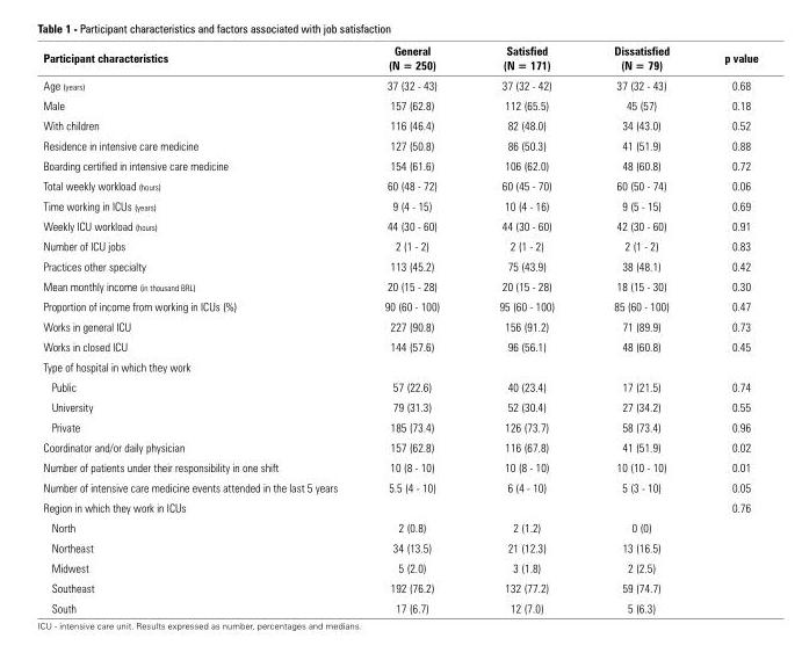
<table><thead><tr><td>Participant characteristics</td><td>General (N = 250)</td><td>Satisfied (N = 171)</td><td>Dissatisfied (N = 79)</td><td>p value</td></tr></thead><tbody><tr><td>Age (years)</td><td>37 (32 - 43)</td><td>37 (32 - 42)</td><td>37 (32 - 43)</td><td>0.68</td></tr><tr><td>Male</td><td>157 (62.8)</td><td>112 (65.5)</td><td>45 (57)</td><td>0.18</td></tr><tr><td>With children</td><td>116 (46.4)</td><td>82 (48.0)</td><td>34 (43.0)</td><td>0.52</td></tr><tr><td>Residence in intensive care medicine</td><td>127 (50.8)</td><td>86 (50.3)</td><td>41 (51.9)</td><td>0.88</td></tr><tr><td>Boarding certified in intensive care medicine</td><td>154 (61.6)</td><td>106 (62.0)</td><td>48 (60.8)</td><td>0.72</td></tr><tr><td>Total weekly workload (hours)</td><td>60 (48 - 72)</td><td>60 (45 - 70)</td><td>60 (50 - 74)</td><td>0.06</td></tr><tr><td>Time working in ICUs (years)</td><td>9 (4 - 15)</td><td>10 (4 - 16)</td><td>9 (5 - 15)</td><td>0.69</td></tr><tr><td>Weekly ICU workload (hours)</td><td>44 (30 - 60)</td><td>44 (30 - 60)</td><td>42 (30 - 60)</td><td>0.91</td></tr><tr><td>Number of ICU jobs</td><td>2 (1 - 2)</td><td>2 (1 - 2)</td><td>2 (1 - 2)</td><td>0.83</td></tr><tr><td>Practices other specialty</td><td>113 (45.2)</td><td>75 (43.9)</td><td>38 (48.1)</td><td>0.42</td></tr><tr><td>Mean monthly income (in thousand BRL)</td><td>20 (15 - 28)</td><td>20 (15 - 28)</td><td>18 (15 - 30)</td><td>0.30</td></tr><tr><td>Proportion of income from working in ICUs (%)</td><td>90 (60 - 100)</td><td>95 (60 - 100)</td><td>85 (60 - 100)</td><td>0.47</td></tr><tr><td>Works in general ICU</td><td>227 (90.8)</td><td>156 (91.2)</td><td>71 (89.9)</td><td>0.73</td></tr><tr><td>Works in closed ICU</td><td>144 (57.6)</td><td>96 (56.1)</td><td>48 (60.8)</td><td>0.45</td></tr><tr><td colspan="5">Type of hospital in which they work</td></tr><tr><td>Public</td><td>57 (22.6)</td><td>40 (23.4)</td><td>17 (21.5)</td><td>0.74</td></tr><tr><td>University</td><td>79 (31.3)</td><td>52 (30.4)</td><td>27 (34.2)</td><td>0.55</td></tr><tr><td>Private</td><td>185 (73.4)</td><td>126 (73.7)</td><td>58 (73.4)</td><td>0.96</td></tr><tr><td>Coordinator and/or daily physician</td><td>157 (62.8)</td><td>116 (67.8)</td><td>41 (51.9)</td><td>0.02</td></tr><tr><td>Number of patients under their responsibility in one shift</td><td>10 (8 - 10)</td><td>10 (8 - 10)</td><td>10 (10 - 10)</td><td>0.01</td></tr><tr><td>Number of intensive care medicine events attended in the last 5 years</td><td>5.5 (4 - 10)</td><td>6 (4 - 10)</td><td>5 (3 - 10)</td><td>0.05</td></tr><tr><td>Region in which they work in ICUs</td><td></td><td></td><td></td><td>0.76</td></tr><tr><td>North</td><td>2 (0.8)</td><td>2 (1.2)</td><td>0 (0)</td><td></td></tr><tr><td>Northeast</td><td>34 (13.5)</td><td>21 (12.3)</td><td>13 (16.5)</td><td></td></tr><tr><td>Midwest</td><td>5 (2.0)</td><td>3 (1.8)</td><td>2 (2.5)</td><td></td></tr><tr><td>Southeast</td><td>192 (76.2)</td><td>132 (77.2)</td><td>59 (74.7)</td><td></td></tr><tr><td>South</td><td>17 (6.7)</td><td>12 (7.0)</td><td>5 (6.3)</td><td></td></tr></tbody></table>